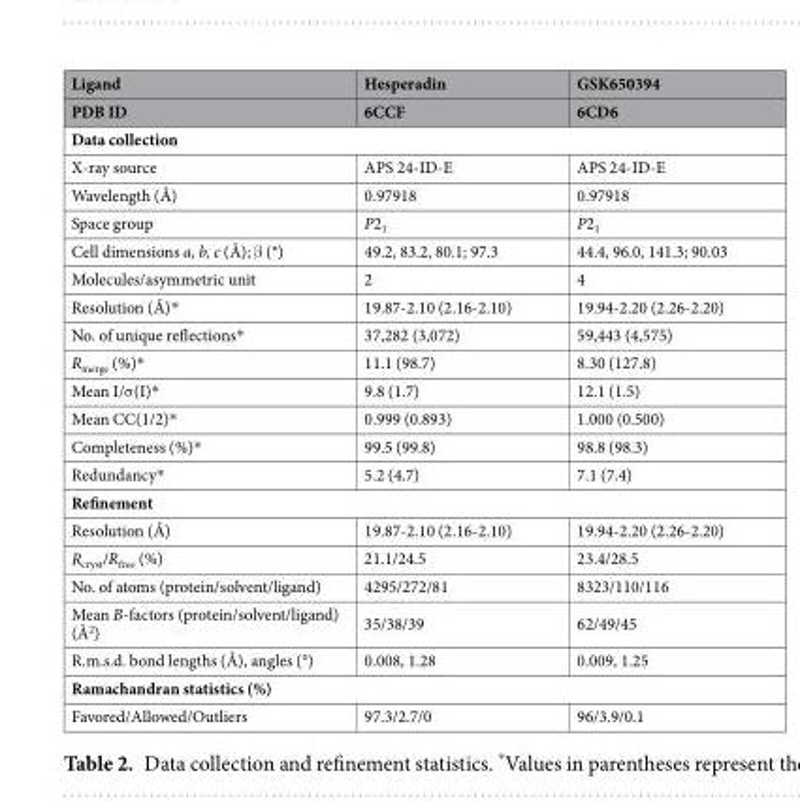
<table><thead><tr><td rowspan="2">Ligand PDB ID</td><td rowspan="2">Hesperadin 6CCF</td><td rowspan="2">GSK650394 6CD6</td></tr><tr></tr></thead><tbody><tr><td colspan="3">Data collection</td></tr><tr><td>X-ray source</td><td>APS 24-ID-E</td><td>APS 24-ID-E</td></tr><tr><td>Wavelength (Å)</td><td>0.97918</td><td>0.97918</td></tr><tr><td>Space group</td><td>P2<sub>1</sub></td><td>P2<sub>1</sub></td></tr><tr><td>Cell dimensions a, b, c (Å); β (°)</td><td>49.2, 83.2, 80.1; 97.3</td><td>44.4, 96.0, 141.3; 90.03</td></tr><tr><td>Molecules/asymmetric unit</td><td>2</td><td>4</td></tr><tr><td>Resolution (Å)*</td><td>19.87-2.10 (2.16-2.10)</td><td>19.94-2.20 (2.26-2.20)</td></tr><tr><td>No. of unique reflections*</td><td>37,282 (3,072)</td><td>59,443 (4,575)</td></tr><tr><td>R<sub>merge</sub> (%)*</td><td>11.1 (98.7)</td><td>8.30 (127.8)</td></tr><tr><td>Mean I/σ(I)*</td><td>9.8 (1.7)</td><td>12.1 (1.5)</td></tr><tr><td>Mean CC(1/2)*</td><td>0.999 (0.893)</td><td>1.000 (0.500)</td></tr><tr><td>Completeness (%)*</td><td>99.5 (99.8)</td><td>98.8 (98.3)</td></tr><tr><td>Redundancy*</td><td>5.2 (4.7)</td><td>7.1 (7.4)</td></tr><tr><td colspan="3">Refinement</td></tr><tr><td>Resolution (Å)</td><td>19.87-2.10 (2.16-2.10)</td><td>19.94-2.20 (2.26-2.20)</td></tr><tr><td>R<sub>cryst</sub>/R<sub>free</sub> (%)</td><td>21.1/24.5</td><td>23.4/28.5</td></tr><tr><td>No. of atoms (protein/solvent/ligand)</td><td>4295/272/81</td><td>8323/110/116</td></tr><tr><td>Mean B-factors (protein/solvent/ligand) (Å<sup>2</sup>)</td><td>35/38/39</td><td>62/49/45</td></tr><tr><td>R.m.s.d. bond lengths (Å), angles (°)</td><td>0.008, 1.28</td><td>0.009, 1.25</td></tr><tr><td colspan="3">Ramachandran statistics (%)</td></tr><tr><td>Favored/Allowed/Outliers</td><td>97.3/2.7/0</td><td>96/3.9/0.1</td></tr></tbody></table>